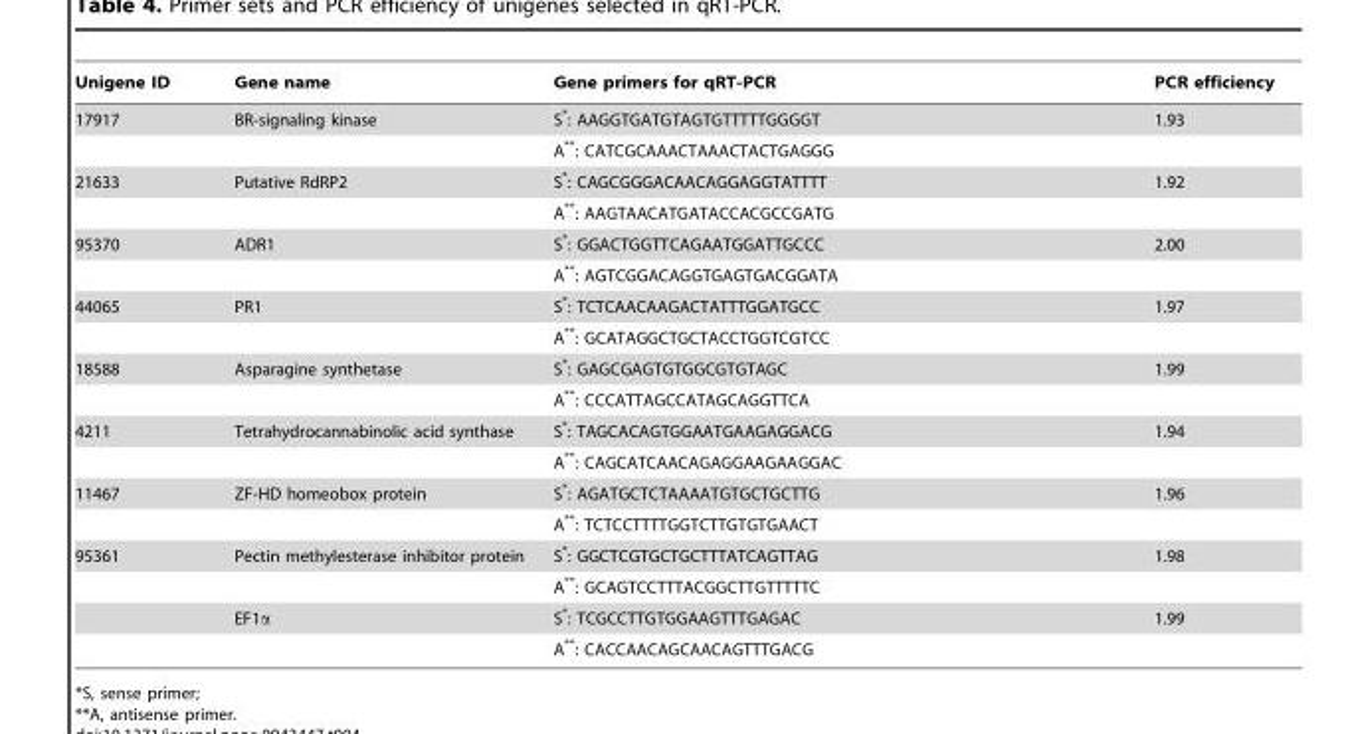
<table><thead><tr><td>Unigene ID</td><td>Gene name</td><td>Gene primers for qRT-PCR</td><td>PCR efficiency</td></tr></thead><tbody><tr><td rowspan="2">17917</td><td>BR-signaling kinase</td><td>S*: AAGGTGATGTAGTGTTTTTGGGGT</td><td>1.93</td></tr><tr><td></td><td>A**: CATCGCAAACTAAACTACTGAGGG</td><td></td></tr><tr><td rowspan="2">21633</td><td>Putative RdRP2</td><td>S*: CAGCGGGACAACAGGAGGTATTTT</td><td>1.92</td></tr><tr><td></td><td>A**: AAGTAACATGATACCACGCCGATG</td><td></td></tr><tr><td rowspan="2">95370</td><td>ADR1</td><td>S*: GGACTGGTTCAGAATGGATTGCCC</td><td>2.00</td></tr><tr><td></td><td>A**: AGTCGGACAGGTGAGTGACGGATA</td><td></td></tr><tr><td rowspan="2">44065</td><td>PR1</td><td>S*: TCTCAACAAGACTATTTGGATGCC</td><td>1.97</td></tr><tr><td></td><td>A**: GCATAGGCTGCTACCTGGTCGTCC</td><td></td></tr><tr><td rowspan="2">18588</td><td>Asparagine synthetase</td><td>S*: GAGCGAGTGTGGCGTGTAGC</td><td>1.99</td></tr><tr><td></td><td>A**: CCCATTAGCCATAGCAGGTTCA</td><td></td></tr><tr><td rowspan="2">4211</td><td>Tetrahydrocannabinolic acid synthase</td><td>S*: TAGCACAGTGGAATGAAGAGGACG</td><td>1.94</td></tr><tr><td></td><td>A**: CAGCATCAACAGAGGAAGAAGGAC</td><td></td></tr><tr><td rowspan="2">11467</td><td>ZF-HD homeobox protein</td><td>S*: AGATGCTCTAAAATGTGCTGCTTG</td><td>1.96</td></tr><tr><td></td><td>A**: TCTCCTTTTGGTCTTGTGTGAACT</td><td></td></tr><tr><td rowspan="4">95361</td><td>Pectin methylesterase inhibitor protein</td><td>S*: GGCTCGTGCTGCTTTATCAGTTAG</td><td>1.98</td></tr><tr><td></td><td>A**: GCAGTCCTTTACGGCTTGTTTTTC</td><td></td></tr><tr><td>EF1α</td><td>S*: TCGCCTTGTGGAAGTTTGAGAC</td><td>1.99</td></tr><tr><td></td><td>A**: CACCAACAGCAACAGTTTGACG</td><td></td></tr></tbody></table>